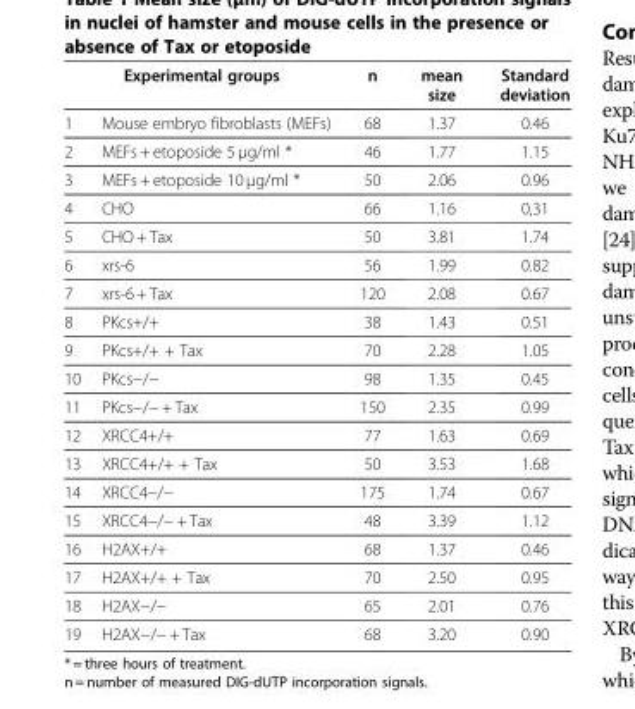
<table><thead><tr><td colspan="2">Experimental groups</td><td rowspan="2">n 68</td><td rowspan="2">mean size 1.37</td><td rowspan="2">Standard deviation 0.46</td></tr><tr><td>1</td><td>Mouse embryo fibroblasts (MEFs)</td></tr></thead><tbody><tr><td>2</td><td>MEFs + etoposide 5 μg/ml *</td><td>46</td><td>1.77</td><td>1.15</td></tr><tr><td>3</td><td>MEFs + etoposide 10 μg/ml *</td><td>50</td><td>2.06</td><td>0.96</td></tr><tr><td>4</td><td>CHO</td><td>66</td><td>1.16</td><td>0,31</td></tr><tr><td>5</td><td>CHO + Tax</td><td>50</td><td>3.81</td><td>1.74</td></tr><tr><td>6</td><td>xrs-6</td><td>56</td><td>1.99</td><td>0.82</td></tr><tr><td>7</td><td>xrs-6 + Tax</td><td>120</td><td>2.08</td><td>0.67</td></tr><tr><td>8</td><td>PKcs+/+</td><td>38</td><td>1.43</td><td>0.51</td></tr><tr><td>9</td><td>PKcs+/+ + Tax</td><td>70</td><td>2.28</td><td>1.05</td></tr><tr><td>10</td><td>PKcs−/−</td><td>98</td><td>1.35</td><td>0.45</td></tr><tr><td>11</td><td>PKcs−/− + Tax</td><td>150</td><td>2.35</td><td>0.99</td></tr><tr><td>12</td><td>XRCC4+/+</td><td>77</td><td>1.63</td><td>0.69</td></tr><tr><td>13</td><td>XRCC4+/+ + Tax</td><td>50</td><td>3.53</td><td>1.68</td></tr><tr><td>14</td><td>XRCC4−/−</td><td>175</td><td>1.74</td><td>0.67</td></tr><tr><td>15</td><td>XRCC4−/− + Tax</td><td>48</td><td>3.39</td><td>1.12</td></tr><tr><td>16</td><td>H2AX+/+</td><td>68</td><td>1.37</td><td>0.46</td></tr><tr><td>17</td><td>H2AX+/+ + Tax</td><td>70</td><td>2.50</td><td>0.95</td></tr><tr><td>18</td><td>H2AX−/−</td><td>65</td><td>2.01</td><td>0.76</td></tr><tr><td>19</td><td>H2AX−/− + Tax</td><td>68</td><td>3.20</td><td>0.90</td></tr></tbody></table>